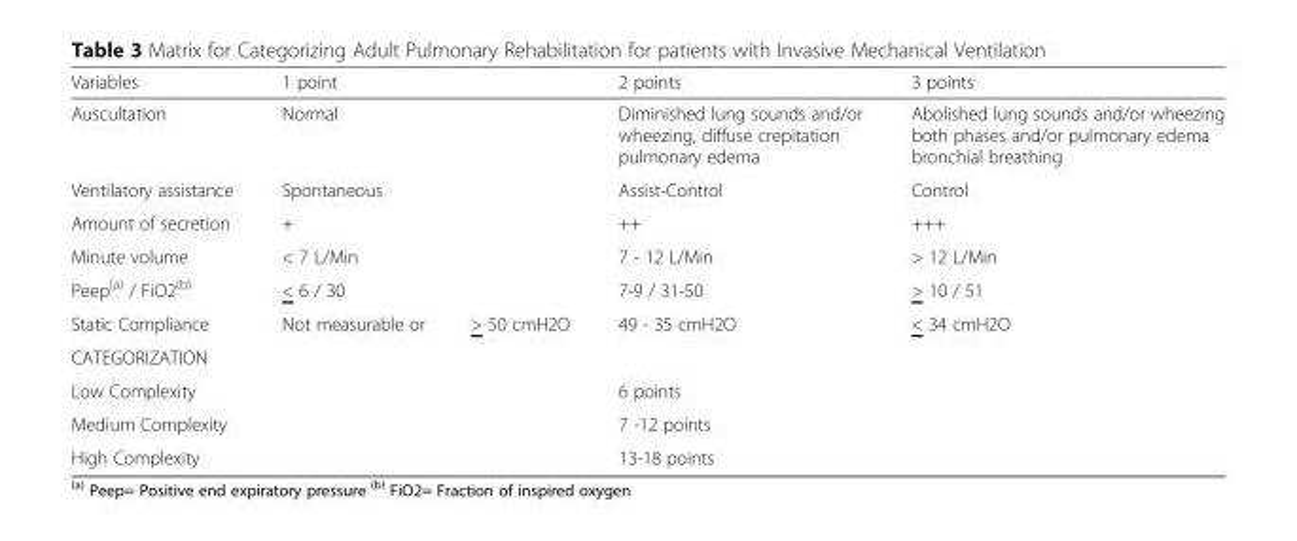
<table><thead><tr><td>Variables</td><td>1 point</td><td>2 points</td><td>3 points</td></tr></thead><tbody><tr><td>Auscultation</td><td>Normal</td><td>Diminished lung sounds and/or wheezing, diffuse crepitation pulmonary edema</td><td>Abolished lung sounds and/or wheezing both phases and/or pulmonary edema bronchial breathing</td></tr><tr><td>Ventilatory assistance</td><td>Spontaneous</td><td>Assist-Control</td><td>Control</td></tr><tr><td>Amount of secretion</td><td>+</td><td>++</td><td>+++</td></tr><tr><td>Minute volume</td><td>&lt; 7 L/Min</td><td>7 - 12 L/Min</td><td>&gt; 12 L/Min</td></tr><tr><td>Peep<sup>(a)</sup> / FiO2<sup>(b)</sup></td><td>&lt; 6 / 30</td><td>7-9 / 31-50</td><td>&gt; 10 / 51</td></tr><tr><td>Static Compliance</td><td>Not measurable or &gt; 50 cmH2O</td><td>49 - 35 cmH2O</td><td>&lt; 34 cmH2O</td></tr><tr><td colspan="4">CATEGORIZATION</td></tr><tr><td colspan="2">Low Complexity</td><td colspan="2">6 points</td></tr><tr><td colspan="2">Medium Complexity</td><td colspan="2">7 -12 points</td></tr><tr><td colspan="2">High Complexity</td><td colspan="2">13-18 points</td></tr></tbody></table>